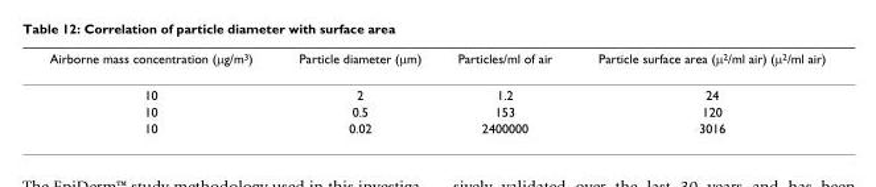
<table><thead><tr><td>Airborne mass concentration (μg/m<sup>3</sup>)</td><td>Particle diameter (μm)</td><td>Particles/ml of air</td><td>Particle surface area (μ<sup>2</sup>/ml air) (μ<sup>2</sup>/ml air)</td></tr></thead><tbody><tr><td>10</td><td>2</td><td>1.2</td><td>24</td></tr><tr><td>10</td><td>0.5</td><td>153</td><td>120</td></tr><tr><td>10</td><td>0.02</td><td>2400000</td><td>3016</td></tr></tbody></table>